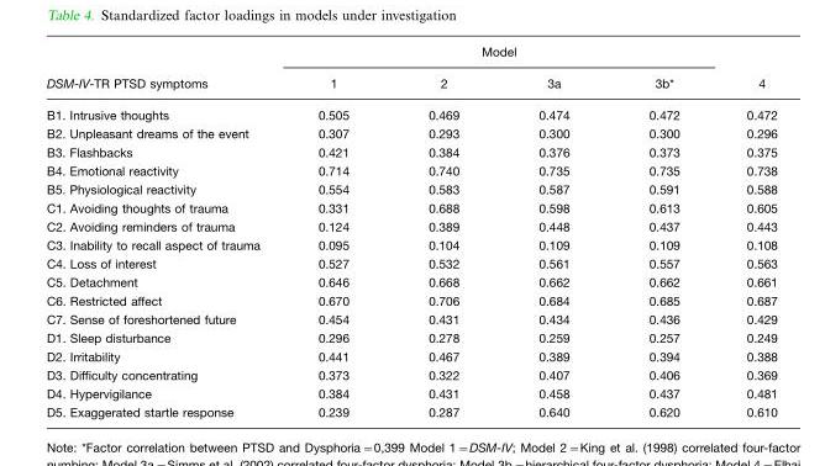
<table><thead><tr><td rowspan="2">DSM-IV-TR PTSD symptoms</td><td colspan="4">Model</td><td rowspan="2">4</td></tr><tr><td>1</td><td>2</td><td>3a</td><td>3b*</td></tr></thead><tbody><tr><td>B1. Intrusive thoughts</td><td>0.505</td><td>0.469</td><td>0.474</td><td>0.472</td><td>0.472</td></tr><tr><td>B2. Unpleasant dreams of the event</td><td>0.307</td><td>0.293</td><td>0.300</td><td>0.300</td><td>0.296</td></tr><tr><td>B3. Flashbacks</td><td>0.421</td><td>0.384</td><td>0.376</td><td>0.373</td><td>0.375</td></tr><tr><td>B4. Emotional reactivity</td><td>0.714</td><td>0.740</td><td>0.735</td><td>0.735</td><td>0.738</td></tr><tr><td>B5. Physiological reactivity</td><td>0.554</td><td>0.583</td><td>0.587</td><td>0.591</td><td>0.588</td></tr><tr><td>C1. Avoiding thoughts of trauma</td><td>0.331</td><td>0.688</td><td>0.598</td><td>0.613</td><td>0.605</td></tr><tr><td>C2. Avoiding reminders of trauma</td><td>0.124</td><td>0.389</td><td>0.448</td><td>0.437</td><td>0.443</td></tr><tr><td>C3. Inability to recall aspect of trauma</td><td>0.095</td><td>0.104</td><td>0.109</td><td>0.109</td><td>0.108</td></tr><tr><td>C4. Loss of interest</td><td>0.527</td><td>0.532</td><td>0.561</td><td>0.557</td><td>0.563</td></tr><tr><td>C5. Detachment</td><td>0.646</td><td>0.668</td><td>0.662</td><td>0.662</td><td>0.661</td></tr><tr><td>C6. Restricted affect</td><td>0.670</td><td>0.706</td><td>0.684</td><td>0.685</td><td>0.687</td></tr><tr><td>C7. Sense of foreshortened future</td><td>0.454</td><td>0.431</td><td>0.434</td><td>0.436</td><td>0.429</td></tr><tr><td>D1. Sleep disturbance</td><td>0.296</td><td>0.278</td><td>0.259</td><td>0.257</td><td>0.249</td></tr><tr><td>D2. Irritability</td><td>0.441</td><td>0.467</td><td>0.389</td><td>0.394</td><td>0.388</td></tr><tr><td>D3. Difficulty concentrating</td><td>0.373</td><td>0.322</td><td>0.407</td><td>0.406</td><td>0.369</td></tr><tr><td>D4. Hypervigilance</td><td>0.384</td><td>0.431</td><td>0.458</td><td>0.437</td><td>0.481</td></tr><tr><td>D5. Exaggerated startle response</td><td>0.239</td><td>0.287</td><td>0.640</td><td>0.620</td><td>0.610</td></tr></tbody></table>